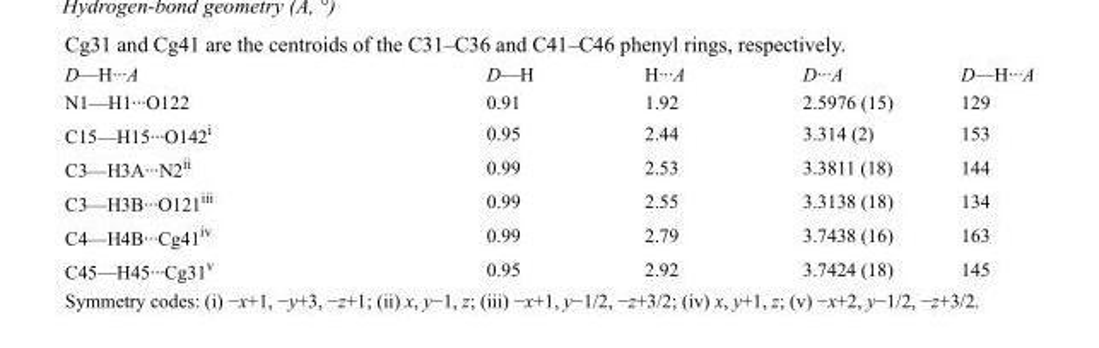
<table><tbody><tr><td>D—H···A</td><td>D—H</td><td>H···A</td><td>D···A</td><td>D—H···A</td></tr><tr><td>N1—H1···O122</td><td>0.91</td><td>1.92</td><td>2.5976 (15)</td><td>129</td></tr><tr><td>C15—H15···O142<sup>i</sup></td><td>0.95</td><td>2.44</td><td>3.314 (2)</td><td>153</td></tr><tr><td>C3—H3A···N2<sup>ii</sup></td><td>0.99</td><td>2.53</td><td>3.3811 (18)</td><td>144</td></tr><tr><td>C3—H3B···O121<sup>iii</sup></td><td>0.99</td><td>2.55</td><td>3.3138 (18)</td><td>134</td></tr><tr><td>C4—H4B···Cg41<sup>iv</sup></td><td>0.99</td><td>2.79</td><td>3.7438 (16)</td><td>163</td></tr><tr><td>C45—H45···Cg31<sup>v</sup></td><td>0.95</td><td>2.92</td><td>3.7424 (18)</td><td>145</td></tr></tbody></table>